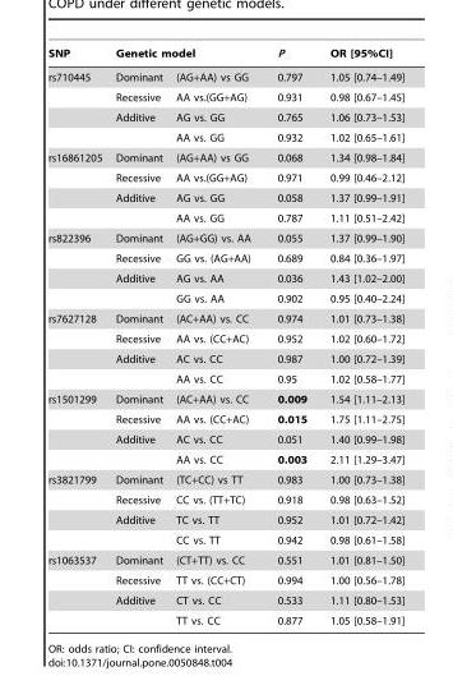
<table><thead><tr><td rowspan="2">SNP rs710445</td><td colspan="2">Genetic model</td><td rowspan="2">P 0.797</td><td rowspan="2">OR [95%CI] 1.05 [0.74–1.49]</td></tr><tr><td>Dominant</td><td>(AG+AA) vs GG</td></tr></thead><tbody><tr><td></td><td>Recessive</td><td>AA vs.(GG+AG)</td><td>0.931</td><td>0.98 [0.67–1.45]</td></tr><tr><td></td><td>Additive</td><td>AG vs. GG</td><td>0.765</td><td>1.06 [0.73–1.53]</td></tr><tr><td></td><td></td><td>AA vs. GG</td><td>0.932</td><td>1.02 [0.65–1.61]</td></tr><tr><td rowspan="4">rs16861205</td><td>Dominant</td><td>(AG+AA) vs GG</td><td>0.068</td><td>1.34 [0.98–1.84]</td></tr><tr><td>Recessive</td><td>AA vs.(GG+AG)</td><td>0.971</td><td>0.99 [0.46–2.12]</td></tr><tr><td>Additive</td><td>AG vs. GG</td><td>0.058</td><td>1.37 [0.99–1.91]</td></tr><tr><td></td><td>AA vs. GG</td><td>0.787</td><td>1.11 [0.51–2.42]</td></tr><tr><td rowspan="4">rs822396</td><td>Dominant</td><td>(AG+GG) vs. AA</td><td>0.055</td><td>1.37 [0.99–1.90]</td></tr><tr><td>Recessive</td><td>GG vs. (AG+AA)</td><td>0.689</td><td>0.84 [0.36–1.97]</td></tr><tr><td>Additive</td><td>AG vs. AA</td><td>0.036</td><td>1.43 [1.02–2.00]</td></tr><tr><td></td><td>GG vs. AA</td><td>0.902</td><td>0.95 [0.40–2.24]</td></tr><tr><td rowspan="4">rs7627128</td><td>Dominant</td><td>(AC+AA) vs. CC</td><td>0.974</td><td>1.01 [0.73–1.38]</td></tr><tr><td>Recessive</td><td>AA vs. (CC+AC)</td><td>0.952</td><td>1.02 [0.60–1.72]</td></tr><tr><td>Additive</td><td>AC vs. CC</td><td>0.987</td><td>1.00 [0.72–1.39]</td></tr><tr><td></td><td>AA vs. CC</td><td>0.95</td><td>1.02 [0.58–1.77]</td></tr><tr><td rowspan="4">rs1501299</td><td>Dominant</td><td>(AC+AA) vs. CC</td><td>0.009</td><td>1.54 [1.11–2.13]</td></tr><tr><td>Recessive</td><td>AA vs. (CC+AC)</td><td>0.015</td><td>1.75 [1.11–2.75]</td></tr><tr><td>Additive</td><td>AC vs. CC</td><td>0.051</td><td>1.40 [0.99–1.98]</td></tr><tr><td></td><td>AA vs. CC</td><td>0.003</td><td>2.11 [1.29–3.47]</td></tr><tr><td rowspan="4">rs3821799</td><td>Dominant</td><td>(TC+CC) vs TT</td><td>0.983</td><td>1.00 [0.73–1.38]</td></tr><tr><td>Recessive</td><td>CC vs. (TT+TC)</td><td>0.918</td><td>0.98 [0.63–1.52]</td></tr><tr><td>Additive</td><td>TC vs. TT</td><td>0.952</td><td>1.01 [0.72–1.42]</td></tr><tr><td></td><td>CC vs. TT</td><td>0.942</td><td>0.98 [0.61–1.58]</td></tr><tr><td rowspan="4">rs1063537</td><td>Dominant</td><td>(CT+TT) vs. CC</td><td>0.551</td><td>1.01 [0.81–1.50]</td></tr><tr><td>Recessive</td><td>TT vs. (CC+CT)</td><td>0.994</td><td>1.00 [0.56–1.78]</td></tr><tr><td>Additive</td><td>CT vs. CC</td><td>0.533</td><td>1.11 [0.80–1.53]</td></tr><tr><td></td><td>TT vs. CC</td><td>0.877</td><td>1.05 [0.58–1.91]</td></tr></tbody></table>